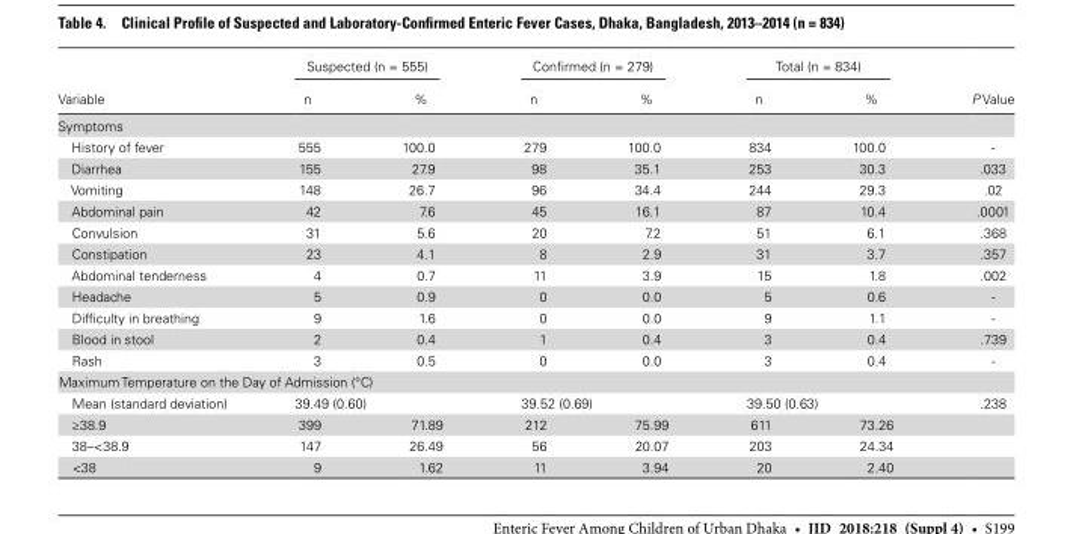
<table><thead><tr><td rowspan="2">Variable</td><td colspan="2">Suspected (n = 555)</td><td colspan="2">Confirmed (n = 279)</td><td colspan="2">Total (n = 834)</td><td rowspan="2">P Value</td></tr><tr><td>n</td><td>%</td><td>n</td><td>%</td><td>n</td><td>%</td></tr></thead><tbody><tr><td colspan="8">Symptoms</td></tr><tr><td>History of fever</td><td>555</td><td>100.0</td><td>279</td><td>100.0</td><td>834</td><td>100.0</td><td>-</td></tr><tr><td>Diarrhea</td><td>155</td><td>27.9</td><td>98</td><td>35.1</td><td>253</td><td>30.3</td><td>.033</td></tr><tr><td>Vomiting</td><td>148</td><td>26.7</td><td>96</td><td>34.4</td><td>244</td><td>29.3</td><td>.02</td></tr><tr><td>Abdominal pain</td><td>42</td><td>7.6</td><td>45</td><td>16.1</td><td>87</td><td>10.4</td><td>.0001</td></tr><tr><td>Convulsion</td><td>31</td><td>5.6</td><td>20</td><td>7.2</td><td>51</td><td>6.1</td><td>.368</td></tr><tr><td>Constipation</td><td>23</td><td>4.1</td><td>8</td><td>2.9</td><td>31</td><td>3.7</td><td>.357</td></tr><tr><td>Abdominal tenderness</td><td>4</td><td>0.7</td><td>11</td><td>3.9</td><td>15</td><td>1.8</td><td>.002</td></tr><tr><td>Headache</td><td>5</td><td>0.9</td><td>0</td><td>0.0</td><td>5</td><td>0.6</td><td>-</td></tr><tr><td>Difficulty in breathing</td><td>9</td><td>1.6</td><td>0</td><td>0.0</td><td>9</td><td>1.1</td><td>-</td></tr><tr><td>Blood in stool</td><td>2</td><td>0.4</td><td>1</td><td>0.4</td><td>3</td><td>0.4</td><td>.739</td></tr><tr><td>Rash</td><td>3</td><td>0.5</td><td>0</td><td>0.0</td><td>3</td><td>0.4</td><td>-</td></tr><tr><td colspan="8">Maximum Temperature on the Day of Admission (°C)</td></tr><tr><td>Mean (standard deviation)</td><td colspan="2">39.49 (0.60)</td><td colspan="2">39.52 (0.69)</td><td colspan="2">39.50 (0.63)</td><td>.238</td></tr><tr><td>≥38.9</td><td>399</td><td>71.89</td><td>212</td><td>75.99</td><td>611</td><td>73.26</td><td></td></tr><tr><td>38–&lt;38.9</td><td>147</td><td>26.49</td><td>56</td><td>20.07</td><td>203</td><td>24.34</td><td></td></tr><tr><td>&lt;38</td><td>9</td><td>1.62</td><td>11</td><td>3.94</td><td>20</td><td>2.40</td><td></td></tr></tbody></table>